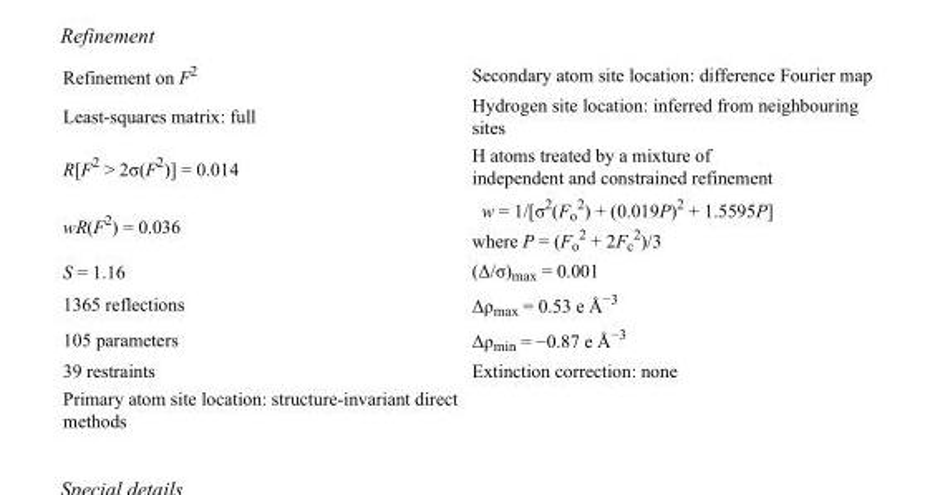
<table><tbody><tr><td>Refinement on F<sup>2</sup></td><td>Secondary atom site location: difference Fourier map</td></tr><tr><td>Least-squares matrix: full</td><td>Hydrogen site location: inferred from neighbouring sites</td></tr><tr><td>R[F<sup>2</sup> &gt; 2σ(F<sup>2</sup>)] = 0.014</td><td>H atoms treated by a mixture of independent and constrained refinement</td></tr><tr><td>wR(F<sup>2</sup>) = 0.036</td><td>w = 1/[σ<sup>2</sup>(F<sub>o</sub> <sup>2</sup>) + (0.019P)<sup>2</sup> + 1.5595P] where P = (F<sub>o</sub> <sup>2</sup> + 2F<sub>c</sub> <sup>2</sup>)/3</td></tr><tr><td>S = 1.16</td><td>(Δ/σ)<sub>max</sub> = 0.001</td></tr><tr><td>1365 reflections</td><td>Δρ<sub>max</sub> = 0.53 e Å<sup>−3</sup></td></tr><tr><td>105 parameters</td><td>Δρ<sub>min</sub> = −0.87 e Å<sup>−3</sup></td></tr><tr><td>39 restraints</td><td>Extinction correction: none</td></tr><tr><td>Primary atom site location: structure-invariant direct methods</td><td></td></tr></tbody></table>